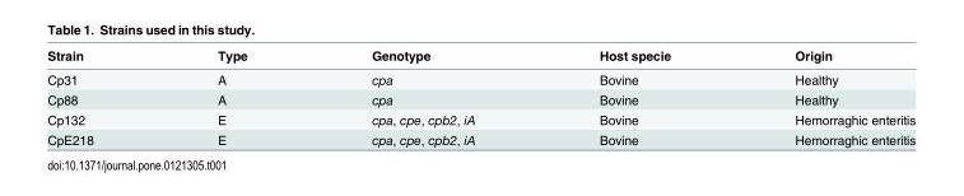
<table><thead><tr><td>Strain</td><td>Type</td><td>Genotype</td><td>Host specie</td><td>Origin</td></tr></thead><tbody><tr><td>Cp31</td><td>A</td><td>cpa</td><td>Bovine</td><td>Healthy</td></tr><tr><td>Cp88</td><td>A</td><td>cpa</td><td>Bovine</td><td>Healthy</td></tr><tr><td>Cp132</td><td>E</td><td>cpa, cpe, cpb2, iA</td><td>Bovine</td><td>Hemorraghic enteritis</td></tr><tr><td>CpE218</td><td>E</td><td>cpa, cpe, cpb2, iA</td><td>Bovine</td><td>Hemorraghic enteritis</td></tr></tbody></table>